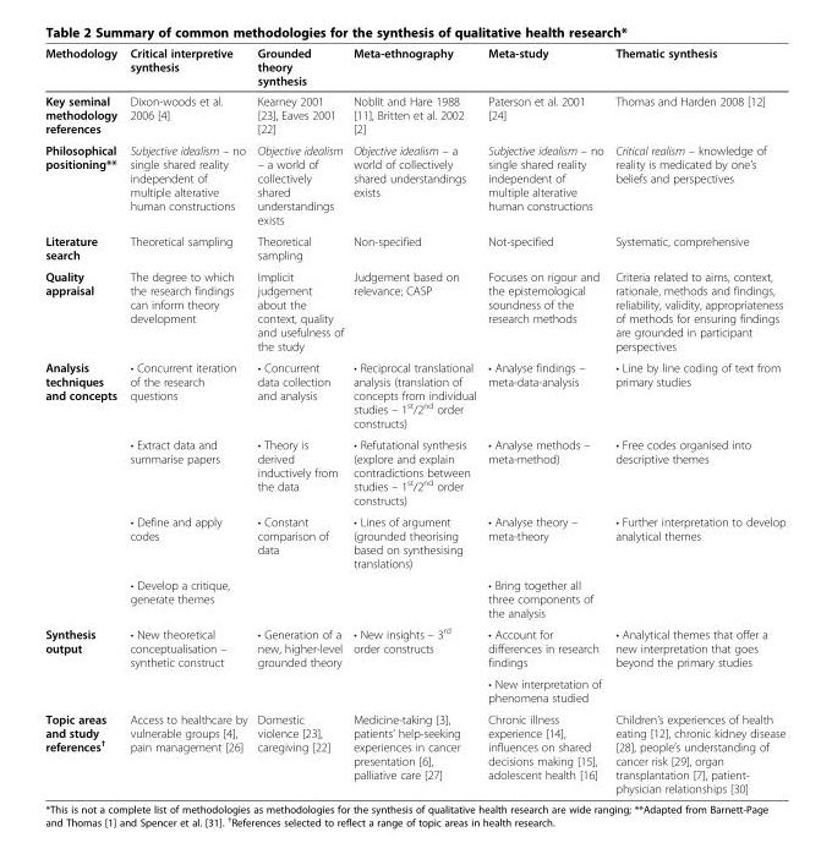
<table><thead><tr><td>Methodology</td><td>Critical interpretive synthesis</td><td>Grounded theory synthesis</td><td>Meta-ethnography</td><td>Meta-study</td><td>Thematic synthesis</td></tr></thead><tbody><tr><td>Key seminal methodology references</td><td>Dixon-woods et al. 2006 [4]</td><td>Kearney 2001 [23], Eaves 2001 [22]</td><td>Noblit and Hare 1988 [11], Britten et al. 2002 [2]</td><td>Paterson et al. 2001 [24]</td><td>Thomas and Harden 2008 [12]</td></tr><tr><td>Philosophical positioning**</td><td>Subjective idealism – no single shared reality independent of multiple alterative human constructions</td><td>Objective idealism – a world of collectively shared understandings exists</td><td>Objective idealism – a world of collectively shared understandings exists</td><td>Subjective idealism – no single shared reality independent of multiple alterative human constructions</td><td>Critical realism – knowledge of reality is medicated by one’s beliefs and perspectives</td></tr><tr><td>Literature search</td><td>Theoretical sampling</td><td>Theoretical sampling</td><td>Non-specified</td><td>Not-specified</td><td>Systematic, comprehensive</td></tr><tr><td>Quality appraisal</td><td>The degree to which the research findings can inform theory development</td><td>Implicit judgement about the context, quality and usefulness of the study</td><td>Judgement based on relevance; CASP</td><td>Focuses on rigour and the epistemological soundness of the research methods</td><td>Criteria related to aims, context, rationale, methods and findings, reliability, validity, appropriateness of methods for ensuring findings are grounded in participant perspectives</td></tr><tr><td rowspan="4">Analysis techniques and concepts</td><td>• Concurrent iteration of the research questions</td><td>• Concurrent data collection and analysis</td><td>• Reciprocal translational analysis (translation of concepts from individual studies – 1st/2nd order constructs)</td><td>• Analyse findings – meta-data-analysis</td><td>• Line by line coding of text from primary studies</td></tr><tr><td>• Extract data and summarise papers</td><td>• Theory is derived inductively from the data</td><td>• Refutational synthesis (explore and explain contradictions between studies – 1st/2nd order constructs)</td><td>• Analyse methods – meta-method)</td><td>• Free codes organised into descriptive themes</td></tr><tr><td>• Define and apply codes</td><td>• Constant comparison of data</td><td>• Lines of argument (grounded theorising based on synthesising translations)</td><td>• Analyse theory – meta-theory</td><td>• Further interpretation to develop analytical themes</td></tr><tr><td>• Develop a critique, generate themes</td><td></td><td></td><td>• Bring together all three components of the analysis</td><td></td></tr><tr><td rowspan="2">Synthesis output</td><td rowspan="2">• New theoretical conceptualisation – synthetic construct</td><td rowspan="2">• Generation of a new, higher-level grounded theory</td><td rowspan="2">• New insights – 3rd order constructs</td><td>• Account for differences in research findings</td><td rowspan="2">• Analytical themes that offer a new interpretation that goes beyond the primary studies</td></tr><tr><td>• New interpretation of phenomena studied</td></tr><tr><td>Topic areas and study references<sup>†</sup></td><td>Access to healthcare by vulnerable groups [4], pain management [26]</td><td>Domestic violence [23], caregiving [22]</td><td>Medicine-taking [3], patients’ help-seeking experiences in cancer presentation [6], palliative care [27]</td><td>Chronic illness experience [14], influences on shared decisions making [15], adolescent health [16]</td><td>Children’s experiences of health eating [12], chronic kidney disease [28], people’s understanding of cancer risk [29], organ transplantation [7], patient- physician relationships [30]</td></tr></tbody></table>